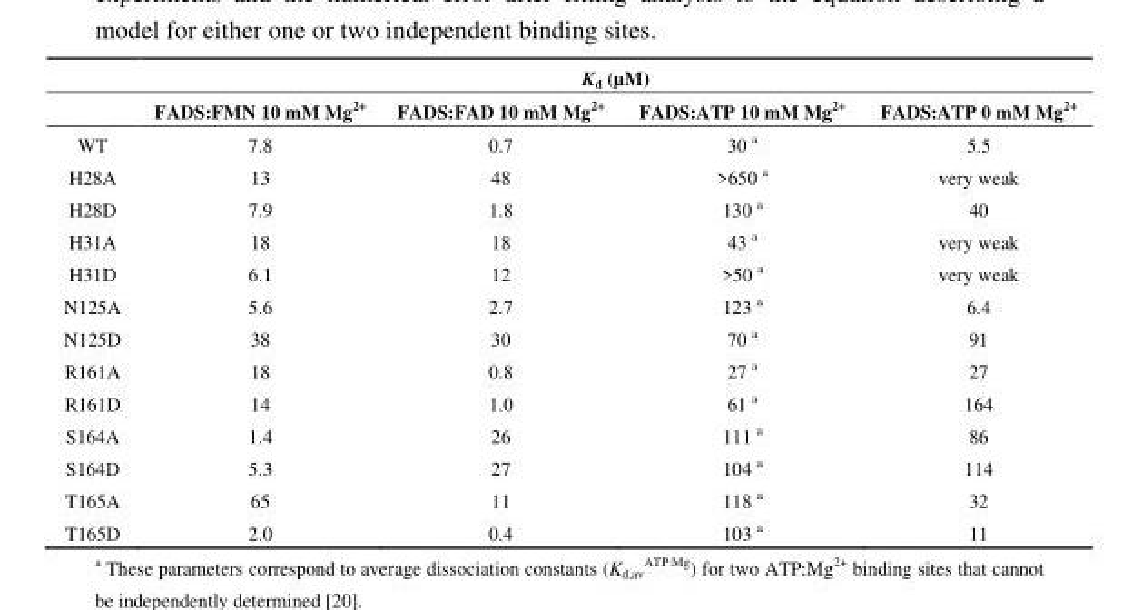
<table><thead><tr><td rowspan="2"></td><td colspan="4">K<sub>d</sub> (µM)</td></tr><tr><td>FADS:FMN 10 mM Mg<sup>2+</sup></td><td>FADS:FAD 10 mM Mg<sup>2+</sup></td><td>FADS:ATP 10 mM Mg<sup>2+</sup></td><td>FADS:ATP 0 mM Mg<sup>2+</sup></td></tr></thead><tbody><tr><td>WT</td><td>7.8</td><td>0.7</td><td>30 a</td><td>5.5</td></tr><tr><td>H28A</td><td>13</td><td>48</td><td>&gt;650 a</td><td>very weak</td></tr><tr><td>H28D</td><td>7.9</td><td>1.8</td><td>130 a</td><td>40</td></tr><tr><td>H31A</td><td>18</td><td>18</td><td>43 a</td><td>very weak</td></tr><tr><td>H31D</td><td>6.1</td><td>12</td><td>&gt;50 a</td><td>very weak</td></tr><tr><td>N125A</td><td>5.6</td><td>2.7</td><td>123 a</td><td>6.4</td></tr><tr><td>N125D</td><td>38</td><td>30</td><td>70 a</td><td>91</td></tr><tr><td>R161A</td><td>18</td><td>0.8</td><td>27 a</td><td>27</td></tr><tr><td>R161D</td><td>14</td><td>1.0</td><td>61 a</td><td>164</td></tr><tr><td>S164A</td><td>1.4</td><td>26</td><td>111 a</td><td>86</td></tr><tr><td>S164D</td><td>5.3</td><td>27</td><td>104 a</td><td>114</td></tr><tr><td>T165A</td><td>65</td><td>11</td><td>118 a</td><td>32</td></tr><tr><td>T165D</td><td>2.0</td><td>0.4</td><td>103 a</td><td>11</td></tr></tbody></table>